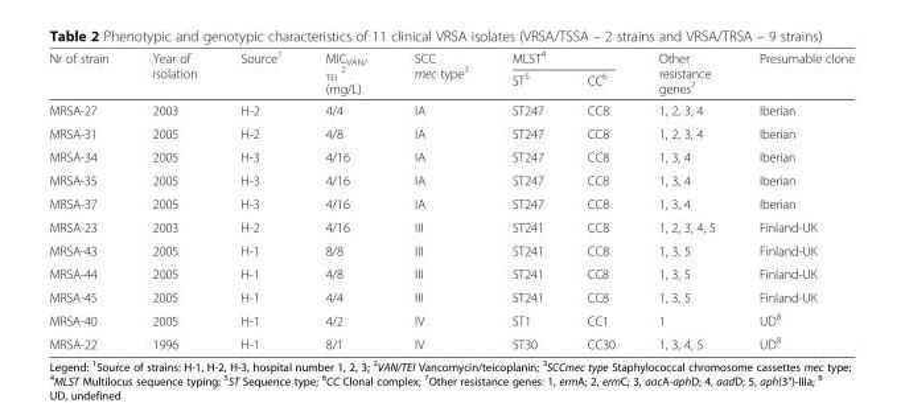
<table><thead><tr><td rowspan="2">Nr of strain</td><td rowspan="2">Year of isolation</td><td rowspan="2">Source<sup>1</sup></td><td rowspan="2">MIC<sub>VAN/ TEI</sub> <sup>2</sup> (mg/L)</td><td rowspan="2">SCC mec type<sup>3</sup></td><td colspan="2">MLST<sup>4</sup></td><td rowspan="2">Other resistance genes<sup>7</sup></td><td rowspan="2">Presumable clone</td></tr><tr><td>ST<sup>5</sup></td><td>CC<sup>6</sup></td></tr></thead><tbody><tr><td>MRSA-27</td><td>2003</td><td>H-2</td><td>4/4</td><td>IA</td><td>ST247</td><td>CC8</td><td>1, 2, 3, 4</td><td>Iberian</td></tr><tr><td>MRSA-31</td><td>2005</td><td>H-2</td><td>4/8</td><td>IA</td><td>ST247</td><td>CC8</td><td>1, 2, 3, 4</td><td>Iberian</td></tr><tr><td>MRSA-34</td><td>2005</td><td>H-3</td><td>4/16</td><td>IA</td><td>ST247</td><td>CC8</td><td>1, 3, 4</td><td>Iberian</td></tr><tr><td>MRSA-35</td><td>2005</td><td>H-3</td><td>4/16</td><td>IA</td><td>ST247</td><td>CC8</td><td>1, 3, 4</td><td>Iberian</td></tr><tr><td>MRSA-37</td><td>2005</td><td>H-3</td><td>4/16</td><td>IA</td><td>ST247</td><td>CC8</td><td>1, 3, 4</td><td>Iberian</td></tr><tr><td>MRSA-23</td><td>2003</td><td>H-2</td><td>4/16</td><td>III</td><td>ST241</td><td>CC8</td><td>1, 2, 3, 4, 5</td><td>Finland-UK</td></tr><tr><td>MRSA-43</td><td>2005</td><td>H-1</td><td>8/8</td><td>III</td><td>ST241</td><td>CC8</td><td>1, 3, 5</td><td>Finland-UK</td></tr><tr><td>MRSA-44</td><td>2005</td><td>H-1</td><td>4/8</td><td>III</td><td>ST241</td><td>CC8</td><td>1, 3, 5</td><td>Finland-UK</td></tr><tr><td>MRSA-45</td><td>2005</td><td>H-1</td><td>4/4</td><td>III</td><td>ST241</td><td>CC8</td><td>1, 3, 5</td><td>Finland-UK</td></tr><tr><td>MRSA-40</td><td>2005</td><td>H-1</td><td>4/2</td><td>IV</td><td>ST1</td><td>CC1</td><td>1</td><td>UD<sup>8</sup></td></tr><tr><td>MRSA-22</td><td>1996</td><td>H-1</td><td>8/1</td><td>IV</td><td>ST30</td><td>CC30</td><td>1, 3, 4, 5</td><td>UD<sup>8</sup></td></tr></tbody></table>